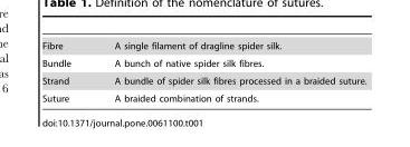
<table><tbody><tr><td>Fibre</td><td>A single filament of dragline spider silk.</td></tr><tr><td>Bundle</td><td>A bunch of native spider silk fibres.</td></tr><tr><td>Strand</td><td>A bundle of spider silk fibres processed in a braided suture.</td></tr><tr><td>Suture</td><td>A braided combination of strands.</td></tr></tbody></table>